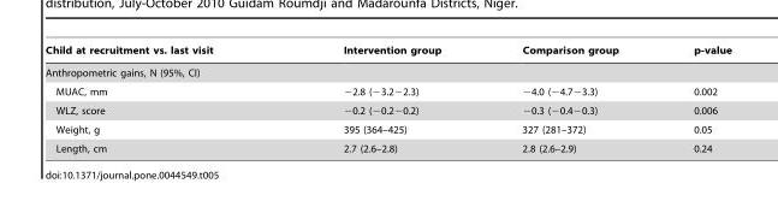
<table><thead><tr><td>Child at recruitment vs. last visit</td><td>Intervention group</td><td>Comparison group</td><td>p-value</td></tr></thead><tbody><tr><td colspan="4">Anthropometric gains, N (95%, CI)</td></tr><tr><td>MUAC, mm</td><td>−2.8 (−3.2−2.3)</td><td>−4.0 (−4.7−3.3)</td><td>0.002</td></tr><tr><td>WLZ, score</td><td>−0.2 (−0.2−0.2)</td><td>−0.3 (−0.4−0.3)</td><td>0.006</td></tr><tr><td>Weight, g</td><td>395 (364–425)</td><td>327 (281–372)</td><td>0.05</td></tr><tr><td>Length, cm</td><td>2.7 (2.6–2.8)</td><td>2.8 (2.6–2.9)</td><td>0.24</td></tr></tbody></table>